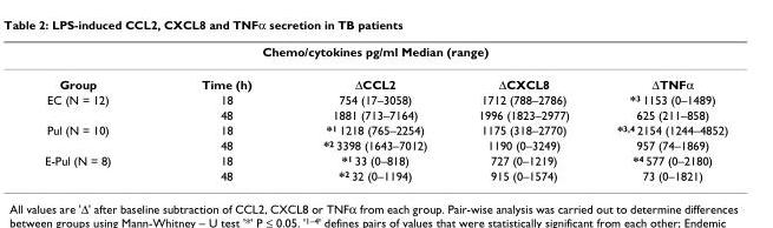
<table><thead><tr><td colspan="5">Chemo/cytokines pg/ml Median (range)</td></tr><tr><td>Group</td><td>Time (h)</td><td>∆CCL2</td><td>∆CXCL8</td><td>∆TNFα</td></tr></thead><tbody><tr><td rowspan="2">EC (N = 12)</td><td>18</td><td>754 (17–3058)</td><td>1712 (788–2786)</td><td>*3 1153 (0–1489)</td></tr><tr><td>48</td><td>1881 (713–7164)</td><td>1996 (1823–2977)</td><td>625 (211–858)</td></tr><tr><td rowspan="2">Pul (N = 10)</td><td>18</td><td>*1 1218 (765–2254)</td><td>1175 (318–2770)</td><td>*3,4 2154 (1244–4852)</td></tr><tr><td>48</td><td>*2 3398 (1643–7012)</td><td>1190 (0–3249)</td><td>957 (74–1869)</td></tr><tr><td rowspan="2">E-Pul (N = 8)</td><td>18</td><td>*1 33 (0–818)</td><td>727 (0–1219)</td><td>*4 577 (0–2180)</td></tr><tr><td>48</td><td>*2 32 (0–1194)</td><td>915 (0–1574)</td><td>73 (0–1821)</td></tr></tbody></table>